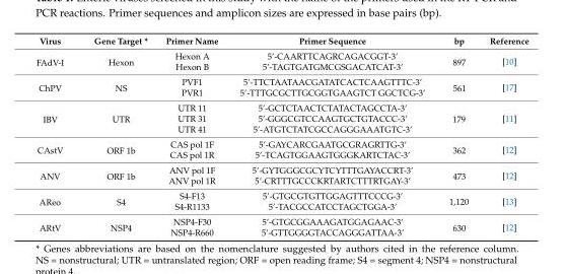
<table><thead><tr><td>Virus</td><td>Gene Target *</td><td>Primer Name</td><td>Primer Sequence</td><td>bp</td><td>Reference</td></tr></thead><tbody><tr><td rowspan="2">FAdV-I</td><td rowspan="2">Hexon</td><td>Hexon A</td><td>5’-CAARTTCAGRCAGACGGT-3’</td><td rowspan="2">897</td><td rowspan="2">[10]</td></tr><tr><td>Hexon B</td><td>5’-TAGTGATGMCGSGACATCAT-3’</td></tr><tr><td rowspan="2">ChPV</td><td rowspan="2">NS</td><td>PVF1</td><td>5’-TTCTAATAACGATATCACTCAAGTTTC-3’</td><td rowspan="2">561</td><td rowspan="2">[17]</td></tr><tr><td>PVR1</td><td>5’-TTTGCGCTTGCGGTGAAGTCT GGCTCG-3’</td></tr><tr><td rowspan="3">IBV</td><td rowspan="3">UTR</td><td>UTR 11</td><td>5’-GCTCTAACTCTATACTAGCCTA-3’</td><td rowspan="3">179</td><td rowspan="3">[11]</td></tr><tr><td>UTR 31</td><td>5’-GGGCGTCCAAGTGCTGTACCC-3’</td></tr><tr><td>UTR 41</td><td>5’-ATGTCTATCGCCAGGGAAATGTC-3’</td></tr><tr><td rowspan="2">CAstV</td><td rowspan="2">ORF 1b</td><td>CAS pol 1F</td><td>5’-GAYCARCGAATGCGRAGRTTG-3’</td><td rowspan="2">362</td><td rowspan="2">[12]</td></tr><tr><td>CAS pol 1R</td><td>5’-TCAGTGGAAGTGGGKARTCTAC-3’</td></tr><tr><td rowspan="2">ANV</td><td rowspan="2">ORF 1b</td><td>ANV pol 1F</td><td>5’-GYTGGGCGCYTCYTTTGAYACCRT-3’</td><td rowspan="2">473</td><td rowspan="2">[12]</td></tr><tr><td>ANV pol 1R</td><td>5’-CRTTTGCCCKRTARTCTTTRTGAY-3’</td></tr><tr><td rowspan="2">AReo</td><td rowspan="2">S4</td><td>S4-F13</td><td>5’-GTGCGTGTTGGAGTTTCCCG-3’</td><td rowspan="2">1,120</td><td rowspan="2">[13]</td></tr><tr><td>S4-R1133</td><td>5’-TACGCCATCCTAGCTGGA-3’</td></tr><tr><td rowspan="2">ARtV</td><td rowspan="2">NSP4</td><td>NSP4-F30</td><td>5’-GTGCGGAAAGATGGAGAAC-3’</td><td rowspan="2">630</td><td rowspan="2">[12]</td></tr><tr><td>NSP4-R660</td><td>5’-GTTGGGGTACCAGGGATTAA-3’</td></tr></tbody></table>